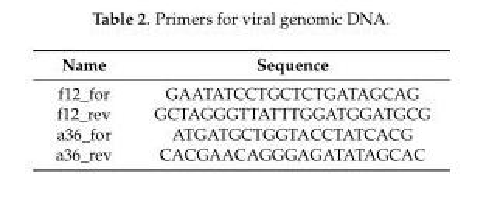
<table><thead><tr><td>Name</td><td>Sequence</td></tr></thead><tbody><tr><td>f12_for</td><td>GAATATCCTGCTCTGATAGCAG</td></tr><tr><td>f12_rev</td><td>GCTAGGGTTATTTGGATGGATGCG</td></tr><tr><td>a36_for</td><td>ATGATGCTGGTACCTATCACG</td></tr><tr><td>a36_rev</td><td>CACGAACAGGGAGATATAGCAC</td></tr></tbody></table>